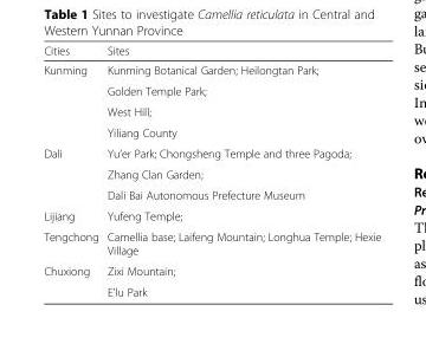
<table><thead><tr><td>Cities</td><td>Sites</td></tr></thead><tbody><tr><td rowspan="4">Kunming</td><td>Kunming Botanical Garden; Heilongtan Park;</td></tr><tr><td>Golden Temple Park;</td></tr><tr><td>West Hill;</td></tr><tr><td>Yiliang County</td></tr><tr><td rowspan="3">Dali</td><td>Yu’er Park; Chongsheng Temple and three Pagoda;</td></tr><tr><td>Zhang Clan Garden;</td></tr><tr><td>Dali Bai Autonomous Prefecture Museum</td></tr><tr><td>Lijiang</td><td>Yufeng Temple;</td></tr><tr><td>Tengchong</td><td>Camellia base; Laifeng Mountain; Longhua Temple; Hexie Village</td></tr><tr><td rowspan="2">Chuxiong</td><td>Zixi Mountain;</td></tr><tr><td>E&#x27;lu Park</td></tr></tbody></table>